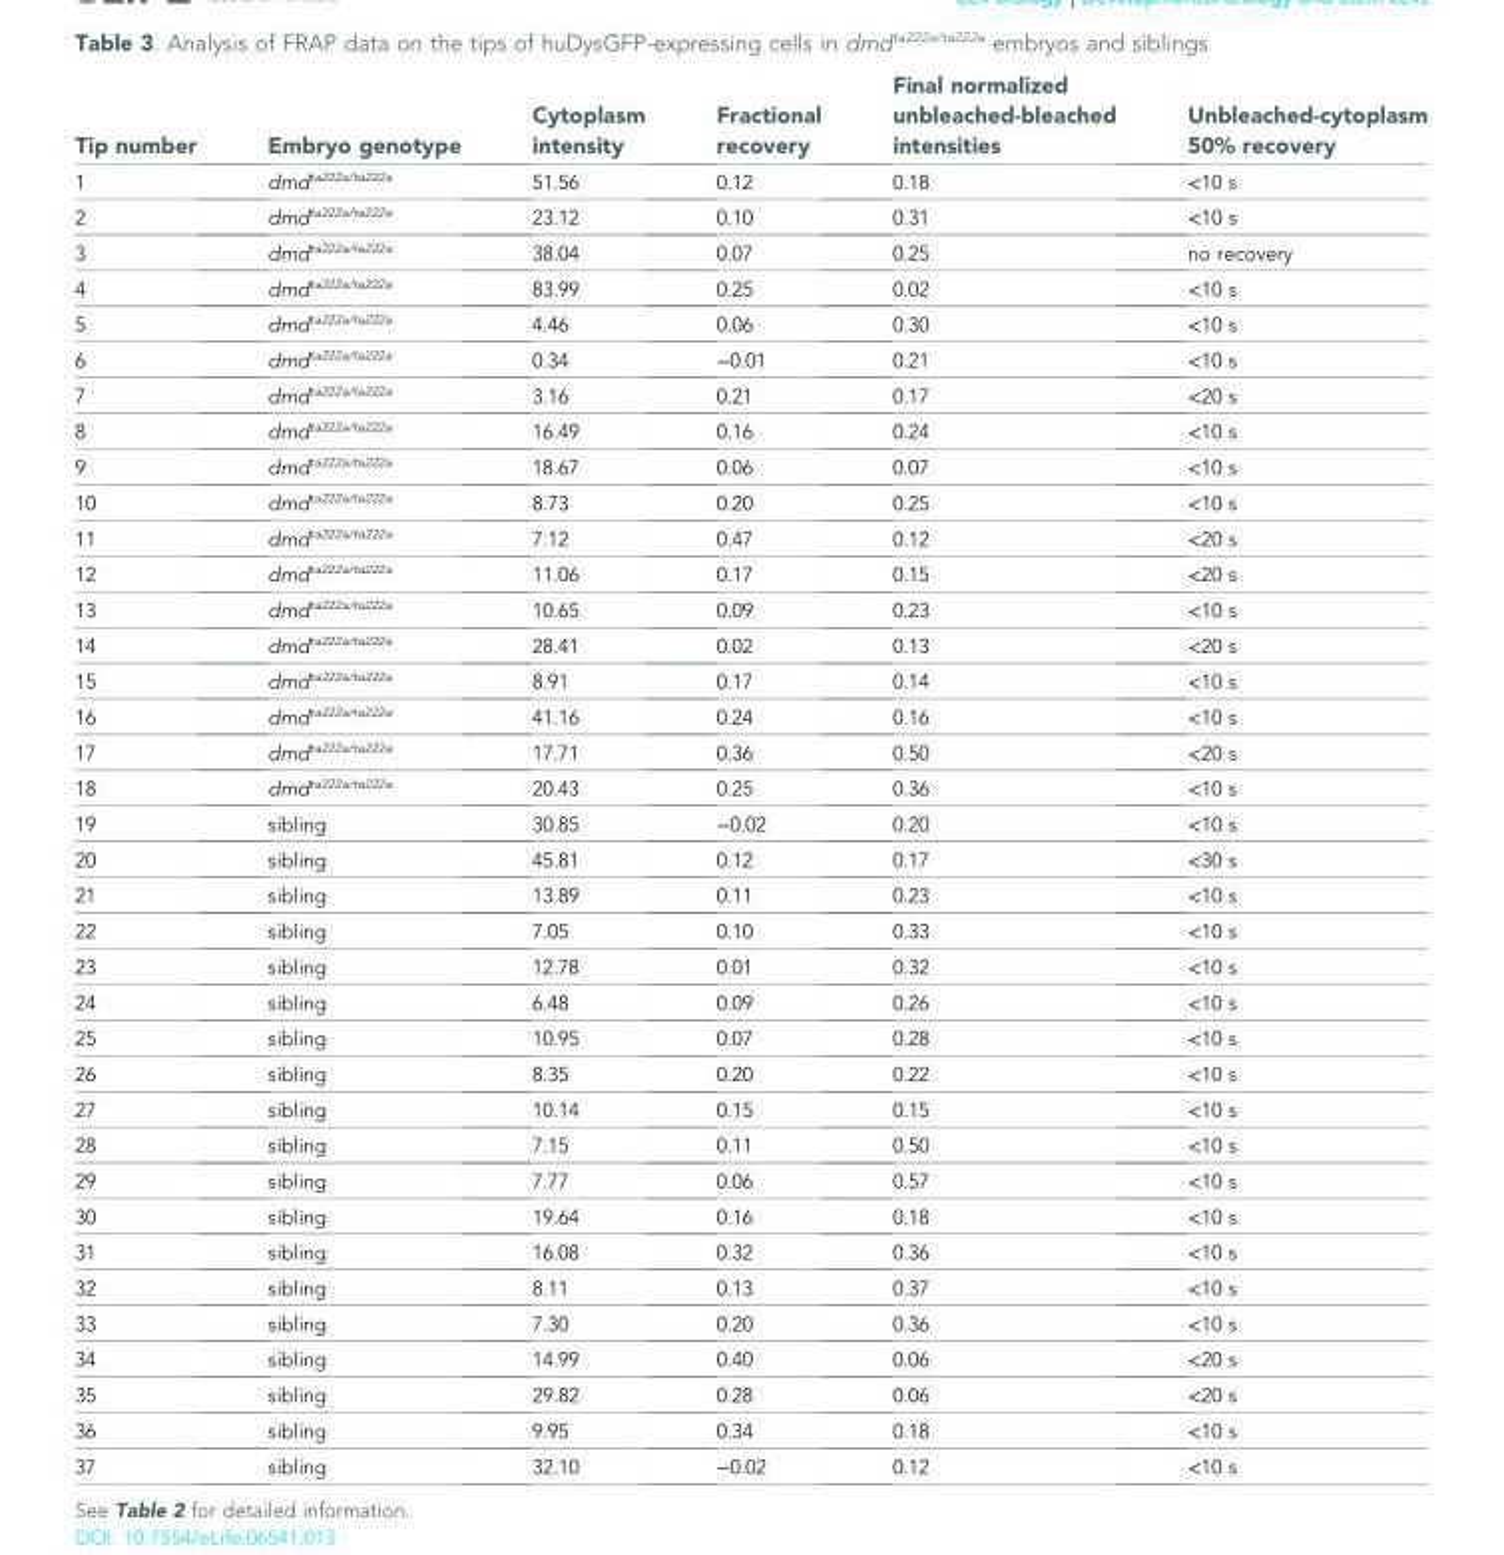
<table><thead><tr><td>Tip number</td><td>Embryo genotype</td><td>Cytoplasm intensity</td><td>Fractional recovery</td><td>Final normalized unbleached-bleached intensities</td><td>Unbleached-cytoplasm 50% recovery</td></tr></thead><tbody><tr><td>1</td><td>dmd<sup>ta222a/ta222a</sup></td><td>51.56</td><td>0.12</td><td>0.18</td><td>&lt;10 s</td></tr><tr><td>2</td><td>dmd<sup>ta222a/ta222a</sup></td><td>23.12</td><td>0.10</td><td>0.31</td><td>&lt;10 s</td></tr><tr><td>3</td><td>dmd<sup>ta222a/ta222a</sup></td><td>38.04</td><td>0.07</td><td>0.25</td><td>no recovery</td></tr><tr><td>4</td><td>dmd<sup>ta222a/ta222a</sup></td><td>83.99</td><td>0.25</td><td>0.02</td><td>&lt;10 s</td></tr><tr><td>5</td><td>dmd<sup>ta222a/ta222a</sup></td><td>4.46</td><td>0.06</td><td>0.30</td><td>&lt;10 s</td></tr><tr><td>6</td><td>dmd<sup>ta222a/ta222a</sup></td><td>0.34</td><td>−0.01</td><td>0.21</td><td>&lt;10 s</td></tr><tr><td>7</td><td>dmd<sup>ta222a/ta222a</sup></td><td>3.16</td><td>0.21</td><td>0.17</td><td>&lt;20 s</td></tr><tr><td>8</td><td>dmd<sup>ta222a/ta222a</sup></td><td>16.49</td><td>0.16</td><td>0.24</td><td>&lt;10 s</td></tr><tr><td>9</td><td>dmd<sup>ta222a/ta222a</sup></td><td>18.67</td><td>0.06</td><td>0.07</td><td>&lt;10 s</td></tr><tr><td>10</td><td>dmd<sup>ta222a/ta222a</sup></td><td>8.73</td><td>0.20</td><td>0.25</td><td>&lt;10 s</td></tr><tr><td>11</td><td>dmd<sup>ta222a/ta222a</sup></td><td>7.12</td><td>0.47</td><td>0.12</td><td>&lt;20 s</td></tr><tr><td>12</td><td>dmd<sup>ta222a/ta222a</sup></td><td>11.06</td><td>0.17</td><td>0.15</td><td>&lt;20 s</td></tr><tr><td>13</td><td>dmd<sup>ta222a/ta222a</sup></td><td>10.65</td><td>0.09</td><td>0.23</td><td>&lt;10 s</td></tr><tr><td>14</td><td>dmd<sup>ta222a/ta222a</sup></td><td>28.41</td><td>0.02</td><td>0.13</td><td>&lt;20 s</td></tr><tr><td>15</td><td>dmd<sup>ta222a/ta222a</sup></td><td>8.91</td><td>0.17</td><td>0.14</td><td>&lt;10 s</td></tr><tr><td>16</td><td>dmd<sup>ta222a/ta222a</sup></td><td>41.16</td><td>0.24</td><td>0.16</td><td>&lt;10 s</td></tr><tr><td>17</td><td>dmd<sup>ta222a/ta222a</sup></td><td>17.71</td><td>0.36</td><td>0.50</td><td>&lt;20 s</td></tr><tr><td>18</td><td>dmd<sup>ta222a/ta222a</sup></td><td>20.43</td><td>0.25</td><td>0.36</td><td>&lt;10 s</td></tr><tr><td>19</td><td>sibling</td><td>30.85</td><td>−0.02</td><td>0.20</td><td>&lt;10 s</td></tr><tr><td>20</td><td>sibling</td><td>45.81</td><td>0.12</td><td>0.17</td><td>&lt;30 s</td></tr><tr><td>21</td><td>sibling</td><td>13.89</td><td>0.11</td><td>0.23</td><td>&lt;10 s</td></tr><tr><td>22</td><td>sibling</td><td>7.05</td><td>0.10</td><td>0.33</td><td>&lt;10 s</td></tr><tr><td>23</td><td>sibling</td><td>12.78</td><td>0.01</td><td>0.32</td><td>&lt;10 s</td></tr><tr><td>24</td><td>sibling</td><td>6.48</td><td>0.09</td><td>0.26</td><td>&lt;10 s</td></tr><tr><td>25</td><td>sibling</td><td>10.95</td><td>0.07</td><td>0.28</td><td>&lt;10 s</td></tr><tr><td>26</td><td>sibling</td><td>8.35</td><td>0.20</td><td>0.22</td><td>&lt;10 s</td></tr><tr><td>27</td><td>sibling</td><td>10.14</td><td>0.15</td><td>0.15</td><td>&lt;10 s</td></tr><tr><td>28</td><td>sibling</td><td>7.15</td><td>0.11</td><td>0.50</td><td>&lt;10 s</td></tr><tr><td>29</td><td>sibling</td><td>7.77</td><td>0.06</td><td>0.57</td><td>&lt;10 s</td></tr><tr><td>30</td><td>sibling</td><td>19.64</td><td>0.16</td><td>0.18</td><td>&lt;10 s</td></tr><tr><td>31</td><td>sibling</td><td>16.08</td><td>0.32</td><td>0.36</td><td>&lt;10 s</td></tr><tr><td>32</td><td>sibling</td><td>8.11</td><td>0.13</td><td>0.37</td><td>&lt;10 s</td></tr><tr><td>33</td><td>sibling</td><td>7.30</td><td>0.20</td><td>0.36</td><td>&lt;10 s</td></tr><tr><td>34</td><td>sibling</td><td>14.99</td><td>0.40</td><td>0.06</td><td>&lt;20 s</td></tr><tr><td>35</td><td>sibling</td><td>29.82</td><td>0.28</td><td>0.06</td><td>&lt;20 s</td></tr><tr><td>36</td><td>sibling</td><td>9.95</td><td>0.34</td><td>0.18</td><td>&lt;10 s</td></tr><tr><td>37</td><td>sibling</td><td>32.10</td><td>−0.02</td><td>0.12</td><td>&lt;10 s</td></tr></tbody></table>